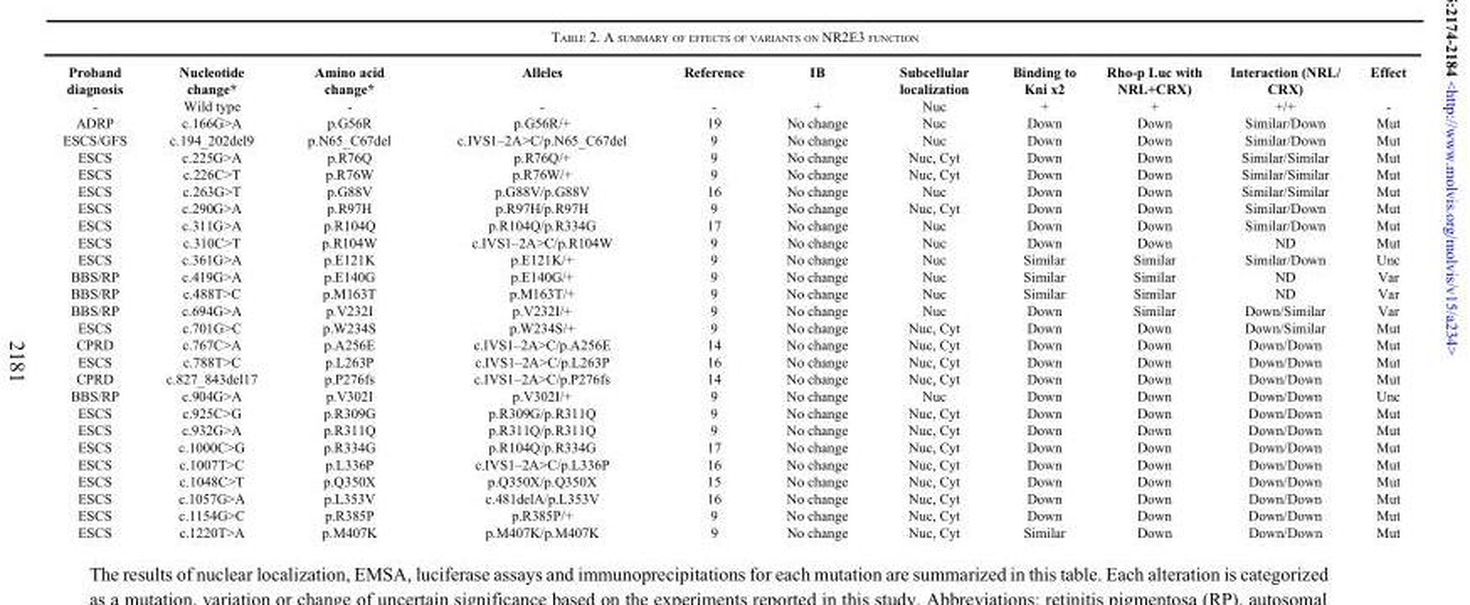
<table><thead><tr><td>Proband diagnosis</td><td>Nucleotide change*</td><td>Amino acid change*</td><td>Alleles</td><td>Reference</td><td>IB</td><td>Subcellular localization</td><td>Binding to Kni x2</td><td>Rho-p Luc with NRL+CRX)</td><td>Interaction (NRL/ CRX)</td><td>Effect</td></tr></thead><tbody><tr><td>-</td><td>Wild type</td><td>-</td><td>-</td><td>-</td><td>+</td><td>Nuc</td><td>+</td><td>+</td><td>+/+</td><td>-</td></tr><tr><td>ADRP</td><td>c.166G&gt;A</td><td>p.G56R</td><td>p.G56R/+</td><td>19</td><td>No change</td><td>Nuc</td><td>Down</td><td>Down</td><td>Similar/Down</td><td>Mut</td></tr><tr><td>ESCS/GFS</td><td>c.194_202del9</td><td>p.N65_C67del</td><td>c.IVS1–2A&gt;C/p.N65_C67del</td><td>9</td><td>No change</td><td>Nuc</td><td>Down</td><td>Down</td><td>Similar/Down</td><td>Mut</td></tr><tr><td>ESCS</td><td>c.225G&gt;A</td><td>p.R76Q</td><td>p.R76Q/+</td><td>9</td><td>No change</td><td>Nuc, Cyt</td><td>Down</td><td>Down</td><td>Similar/Similar</td><td>Mut</td></tr><tr><td>ESCS</td><td>c.226C&gt;T</td><td>p.R76W</td><td>p.R76W/+</td><td>9</td><td>No change</td><td>Nuc, Cyt</td><td>Down</td><td>Down</td><td>Similar/Similar</td><td>Mut</td></tr><tr><td>ESCS</td><td>c.263G&gt;T</td><td>p.G88V</td><td>p.G88V/p.G88V</td><td>16</td><td>No change</td><td>Nuc</td><td>Down</td><td>Down</td><td>Similar/Similar</td><td>Mut</td></tr><tr><td>ESCS</td><td>c.290G&gt;A</td><td>p.R97H</td><td>p.R97H/p.R97H</td><td>9</td><td>No change</td><td>Nuc, Cyt</td><td>Down</td><td>Down</td><td>Similar/Down</td><td>Mut</td></tr><tr><td>ESCS</td><td>c.311G&gt;A</td><td>p.R104Q</td><td>p.R104Q/p.R334G</td><td>17</td><td>No change</td><td>Nuc</td><td>Down</td><td>Down</td><td>Similar/Down</td><td>Mut</td></tr><tr><td>ESCS</td><td>c.310C&gt;T</td><td>p.R104W</td><td>c.IVS1–2A&gt;C/p.R104W</td><td>9</td><td>No change</td><td>Nuc</td><td>Down</td><td>Down</td><td>ND</td><td>Mut</td></tr><tr><td>ESCS</td><td>c.361G&gt;A</td><td>p.E121K</td><td>p.E121K/+</td><td>9</td><td>No change</td><td>Nuc</td><td>Similar</td><td>Similar</td><td>Similar/Down</td><td>Unc</td></tr><tr><td>BBS/RP</td><td>c.419G&gt;A</td><td>p.E140G</td><td>p.E140G/+</td><td>9</td><td>No change</td><td>Nuc</td><td>Similar</td><td>Similar</td><td>ND</td><td>Var</td></tr><tr><td>BBS/RP</td><td>c.488T&gt;C</td><td>p.M163T</td><td>p.M163T/+</td><td>9</td><td>No change</td><td>Nuc</td><td>Similar</td><td>Similar</td><td>ND</td><td>Var</td></tr><tr><td>BBS/RP</td><td>c.694G&gt;A</td><td>p.V232I</td><td>p.V232I/+</td><td>9</td><td>No change</td><td>Nuc</td><td>Down</td><td>Similar</td><td>Down/Similar</td><td>Var</td></tr><tr><td>ESCS</td><td>c.701G&gt;C</td><td>p.W234S</td><td>p.W234S/+</td><td>9</td><td>No change</td><td>Nuc, Cyt</td><td>Down</td><td>Down</td><td>Down/Similar</td><td>Mut</td></tr><tr><td>CPRD</td><td>c.767C&gt;A</td><td>p.A256E</td><td>c.IVS1–2A&gt;C/p.A256E</td><td>14</td><td>No change</td><td>Nuc, Cyt</td><td>Down</td><td>Down</td><td>Down/Down</td><td>Mut</td></tr><tr><td>ESCS</td><td>c.788T&gt;C</td><td>p.L263P</td><td>c.IVS1–2A&gt;C/p.L263P</td><td>16</td><td>No change</td><td>Nuc, Cyt</td><td>Down</td><td>Down</td><td>Down/Down</td><td>Mut</td></tr><tr><td>CPRD</td><td>c.827_843del17</td><td>p.P276fs</td><td>c.IVS1–2A&gt;C/p.P276fs</td><td>14</td><td>No change</td><td>Nuc, Cyt</td><td>Down</td><td>Down</td><td>Down/Down</td><td>Mut</td></tr><tr><td>BBS/RP</td><td>c.904G&gt;A</td><td>p.V302I</td><td>p.V302I/+</td><td>9</td><td>No change</td><td>Nuc</td><td>Down</td><td>Down</td><td>Down/Down</td><td>Unc</td></tr><tr><td>ESCS</td><td>c.925C&gt;G</td><td>p.R309G</td><td>p.R309G/p.R311Q</td><td>9</td><td>No change</td><td>Nuc, Cyt</td><td>Down</td><td>Down</td><td>Down/Down</td><td>Mut</td></tr><tr><td>ESCS</td><td>c.932G&gt;A</td><td>p.R311Q</td><td>p.R311Q/p.R311Q</td><td>9</td><td>No change</td><td>Nuc, Cyt</td><td>Down</td><td>Down</td><td>Down/Down</td><td>Mut</td></tr><tr><td>ESCS</td><td>c.1000C&gt;G</td><td>p.R334G</td><td>p.R104Q/p.R334G</td><td>17</td><td>No change</td><td>Nuc, Cyt</td><td>Down</td><td>Down</td><td>Down/Down</td><td>Mut</td></tr><tr><td>ESCS</td><td>c.1007T&gt;C</td><td>p.L336P</td><td>c.IVS1–2A&gt;C/p.L336P</td><td>16</td><td>No change</td><td>Nuc, Cyt</td><td>Down</td><td>Down</td><td>Down/Down</td><td>Mut</td></tr><tr><td>ESCS</td><td>c.1048C&gt;T</td><td>p.Q350X</td><td>p.Q350X/p.Q350X</td><td>15</td><td>No change</td><td>Nuc, Cyt</td><td>Down</td><td>Down</td><td>Down/Down</td><td>Mut</td></tr><tr><td>ESCS</td><td>c.1057G&gt;A</td><td>p.L353V</td><td>c.481delA/p.L353V</td><td>16</td><td>No change</td><td>Nuc, Cyt</td><td>Down</td><td>Down</td><td>Down/Down</td><td>Mut</td></tr><tr><td>ESCS</td><td>c.1154G&gt;C</td><td>p.R385P</td><td>p.R385P/+</td><td>9</td><td>No change</td><td>Nuc, Cyt</td><td>Down</td><td>Down</td><td>Down/Down</td><td>Mut</td></tr><tr><td>ESCS</td><td>c.1220T&gt;A</td><td>p.M407K</td><td>p.M407K/p.M407K</td><td>9</td><td>No change</td><td>Nuc, Cyt</td><td>Similar</td><td>Down</td><td>Down/Down</td><td>Mut</td></tr></tbody></table>